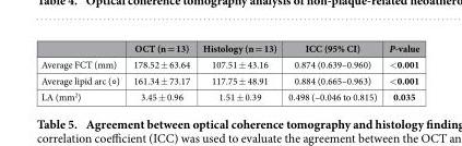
<table><thead><tr><td></td><td>OCT (n = 13)</td><td>Histology (n = 13)</td><td>ICC (95% CI)</td><td>P-value</td></tr></thead><tbody><tr><td>Average FCT (mm)</td><td>178.52 ± 63.64</td><td>107.51 ± 43.16</td><td>0.874 (0.639–0.960)</td><td>&lt; 0.001</td></tr><tr><td>Average lipid arc (◦ )</td><td>161.34 ± 73.17</td><td>117.75 ± 48.91</td><td>0.884 (0.665–0.963)</td><td>&lt; 0.001</td></tr><tr><td>LA (mm<sup>2</sup>)</td><td>3.45 ± 0.96</td><td>1.51 ± 0.39</td><td>0.498 (–0.046 to 0.815)</td><td>0.035</td></tr></tbody></table>